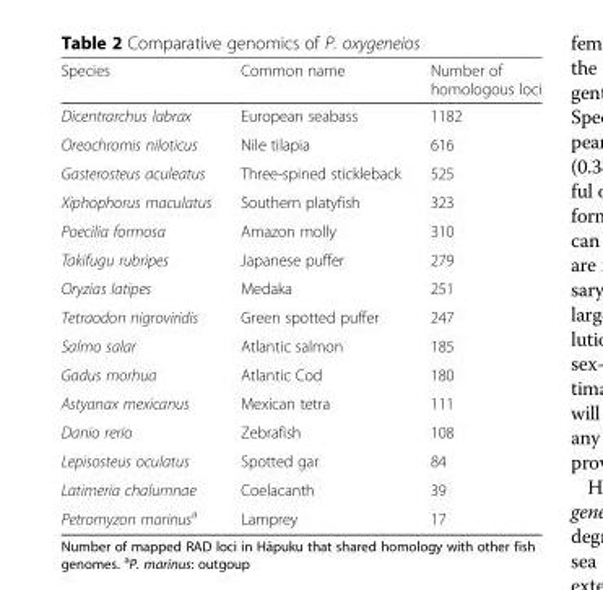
<table><thead><tr><td>Species</td><td>Common name</td><td>Number of homologous loci</td></tr></thead><tbody><tr><td>Dicentrarchus labrax</td><td>European seabass</td><td>1182</td></tr><tr><td>Oreochromis niloticus</td><td>Nile tilapia</td><td>616</td></tr><tr><td>Gasterosteus aculeatus</td><td>Three-spined stickleback</td><td>525</td></tr><tr><td>Xiphophorus maculatus</td><td>Southern platyfish</td><td>323</td></tr><tr><td>Poecilia formosa</td><td>Amazon molly</td><td>310</td></tr><tr><td>Takifugu rubripes</td><td>Japanese puffer</td><td>279</td></tr><tr><td>Oryzias latipes</td><td>Medaka</td><td>251</td></tr><tr><td>Tetraodon nigroviridis</td><td>Green spotted puffer</td><td>247</td></tr><tr><td>Salmo salar</td><td>Atlantic salmon</td><td>185</td></tr><tr><td>Gadus morhua</td><td>Atlantic Cod</td><td>180</td></tr><tr><td>Astyanax mexicanus</td><td>Mexican tetra</td><td>111</td></tr><tr><td>Danio rerio</td><td>Zebrafish</td><td>108</td></tr><tr><td>Lepisosteus oculatus</td><td>Spotted gar</td><td>84</td></tr><tr><td>Latimeria chalumnae</td><td>Coelacanth</td><td>39</td></tr><tr><td>Petromyzon marinus<sup>a</sup></td><td>Lamprey</td><td>17</td></tr></tbody></table>